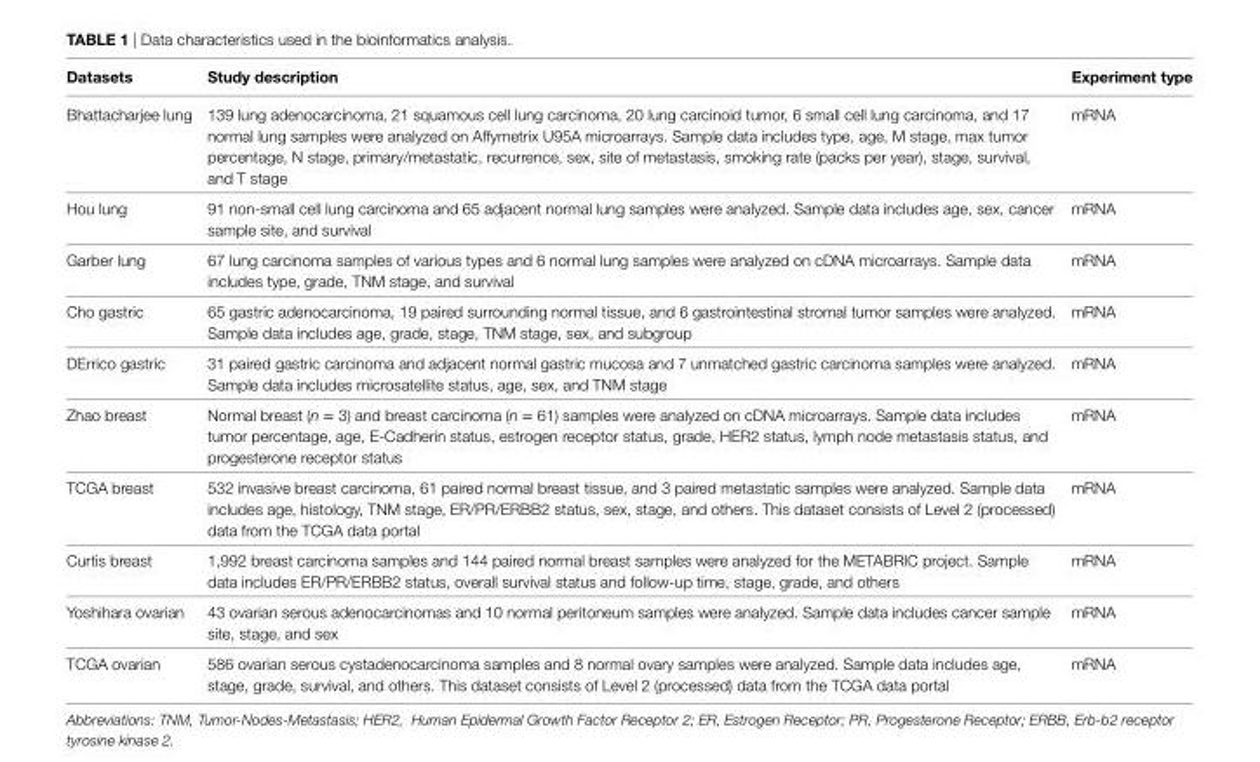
<table><thead><tr><td>Datasets</td><td>study description</td><td>experiment type</td></tr></thead><tbody><tr><td>Bhattacharjee lung</td><td>139 lung adenocarcinoma, 21 squamous cell lung carcinoma, 20 lung carcinoid tumor, 6 small cell lung carcinoma, and 17 normal lung samples were analyzed on Affymetrix U95A microarrays. Sample data includes type, age, M stage, max tumor percentage, N stage, primary/metastatic, recurrence, sex, site of metastasis, smoking rate (packs per year), stage, survival, and T stage</td><td>mRNA</td></tr><tr><td>Hou lung</td><td>91 non-small cell lung carcinoma and 65 adjacent normal lung samples were analyzed. Sample data includes age, sex, cancer sample site, and survival</td><td>mRNA</td></tr><tr><td>Garber lung</td><td>67 lung carcinoma samples of various types and 6 normal lung samples were analyzed on cDNA microarrays. Sample data includes type, grade, TNM stage, and survival</td><td>mRNA</td></tr><tr><td>Cho gastric</td><td>65 gastric adenocarcinoma, 19 paired surrounding normal tissue, and 6 gastrointestinal stromal tumor samples were analyzed. Sample data includes age, grade, stage, TNM stage, sex, and subgroup</td><td>mRNA</td></tr><tr><td>DErrico gastric</td><td>31 paired gastric carcinoma and adjacent normal gastric mucosa and 7 unmatched gastric carcinoma samples were analyzed. Sample data includes microsatellite status, age, sex, and TNM stage</td><td>mRNA</td></tr><tr><td>Zhao breast</td><td>Normal breast (n = 3) and breast carcinoma (n = 61) samples were analyzed on cDNA microarrays. Sample data includes tumor percentage, age, E-Cadherin status, estrogen receptor status, grade, HER2 status, lymph node metastasis status, and progesterone receptor status</td><td>mRNA</td></tr><tr><td>TCGA breast</td><td>532 invasive breast carcinoma, 61 paired normal breast tissue, and 3 paired metastatic samples were analyzed. Sample data includes age, histology, TNM stage, ER/PR/ERBB2 status, sex, stage, and others. This dataset consists of Level 2 (processed) data from the TCGA data portal</td><td>mRNA</td></tr><tr><td>Curtis breast</td><td>1,992 breast carcinoma samples and 144 paired normal breast samples were analyzed for the METABRIC project. Sample data includes ER/PR/ERBB2 status, overall survival status and follow-up time, stage, grade, and others</td><td>mRNA</td></tr><tr><td>Yoshihara ovarian</td><td>43 ovarian serous adenocarcinomas and 10 normal peritoneum samples were analyzed. Sample data includes cancer sample site, stage, and sex</td><td>mRNA</td></tr><tr><td>TCGA ovarian</td><td>586 ovarian serous cystadenocarcinoma samples and 8 normal ovary samples were analyzed. Sample data includes age, stage, grade, survival, and others. This dataset consists of Level 2 (processed) data from the TCGA data portal</td><td>mRNA</td></tr></tbody></table>